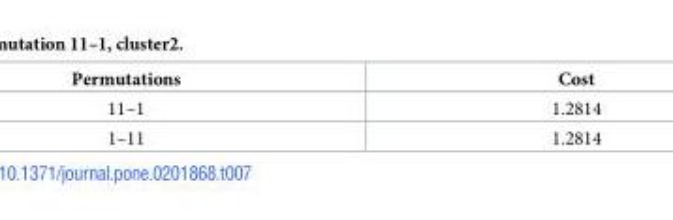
<table><thead><tr><td>Permutations</td><td>Cost</td></tr></thead><tbody><tr><td>11–1</td><td>1.2814</td></tr><tr><td>1–11</td><td>1.2814</td></tr></tbody></table>